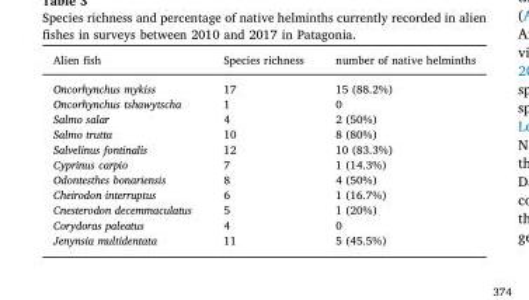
<table><thead><tr><td>Alien fish</td><td>Species richness</td><td>number of native helminths</td></tr></thead><tbody><tr><td>Oncorhynchus mykiss</td><td>17</td><td>15 (88.2%)</td></tr><tr><td>Oncorhynchus tshawytscha</td><td>1</td><td>0</td></tr><tr><td>Salmo salar</td><td>4</td><td>2 (50%)</td></tr><tr><td>Salmo trutta</td><td>10</td><td>8 (80%)</td></tr><tr><td>Salvelinus fontinalis</td><td>12</td><td>10 (83.3%)</td></tr><tr><td>Cyprinus carpio</td><td>7</td><td>1 (14.3%)</td></tr><tr><td>Odontesthes bonariensis</td><td>8</td><td>4 (50%)</td></tr><tr><td>Cheirodon interruptus</td><td>6</td><td>1 (16.7%)</td></tr><tr><td>Cnesterodon decemmaculatus</td><td>5</td><td>1 (20%)</td></tr><tr><td>Corydoras paleatus</td><td>4</td><td>0</td></tr><tr><td>Jenynsia multidentata</td><td>11</td><td>5 (45.5%)</td></tr></tbody></table>